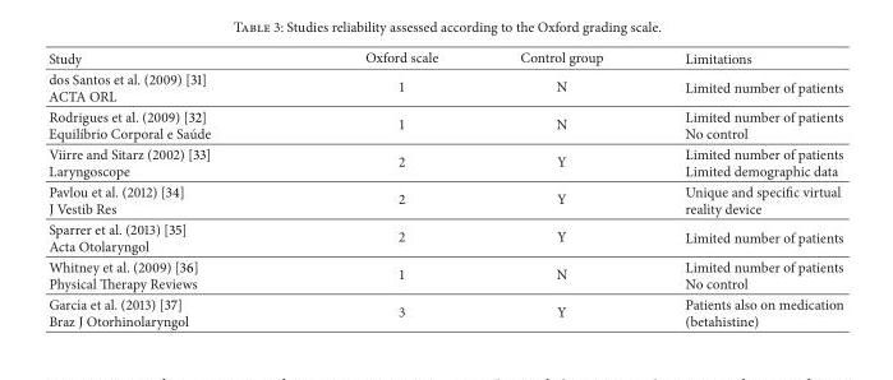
<table><thead><tr><td>Study</td><td>Oxford scale</td><td>Control group</td><td>Limitations</td></tr></thead><tbody><tr><td>dos Santos et al. (2009) [31] ACTA ORL</td><td>1</td><td>N</td><td>Limited number of patients</td></tr><tr><td>Rodrigues et al. (2009) [32] Equil´ıbrio Corporal e Sa´ude</td><td>1</td><td>N</td><td>Limited number of patients No control</td></tr><tr><td>Viirre and Sitarz (2002) [33] Laryngoscope</td><td>2</td><td>Y</td><td>Limited number of patients Limited demographic data</td></tr><tr><td>Pavlou et al. (2012) [34] J Vestib Res</td><td>2</td><td>Y</td><td>Unique and specific virtual reality device</td></tr><tr><td>Sparrer et al. (2013) [35] Acta Otolaryngol</td><td>2</td><td>Y</td><td>Limited number of patients</td></tr><tr><td>Whitney et al. (2009) [36] Physical Therapy Reviews</td><td>1</td><td>N</td><td>Limited number of patients No control</td></tr><tr><td>Garcia et al. (2013) [37] Braz J Otorhinolaryngol</td><td>3</td><td>Y</td><td>Patients also on medication (betahistine)</td></tr></tbody></table>